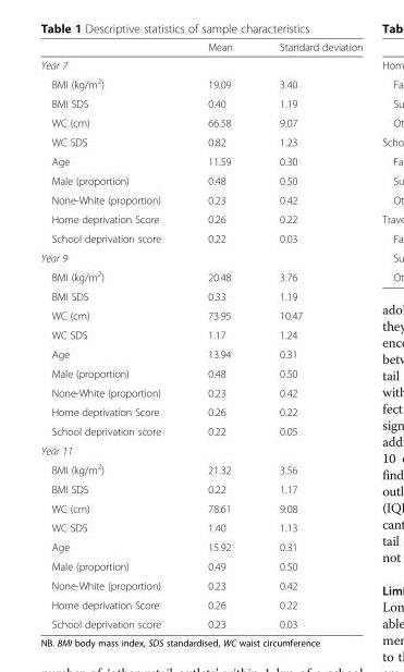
<table><thead><tr><td></td><td>Mean</td><td>Standard deviation</td></tr></thead><tbody><tr><td colspan="3">Year 7</td></tr><tr><td>BMI (kg/m<sup>2</sup>)</td><td>19.09</td><td>3.40</td></tr><tr><td>BMI SDS</td><td>0.40</td><td>1.19</td></tr><tr><td>WC (cm)</td><td>66.58</td><td>9.07</td></tr><tr><td>WC SDS</td><td>0.82</td><td>1.23</td></tr><tr><td>Age</td><td>11.59</td><td>0.30</td></tr><tr><td>Male (proportion)</td><td>0.48</td><td>0.50</td></tr><tr><td>None-White (proportion)</td><td>0.23</td><td>0.42</td></tr><tr><td>Home deprivation Score</td><td>0.26</td><td>0.22</td></tr><tr><td>School deprivation score</td><td>0.22</td><td>0.03</td></tr><tr><td colspan="3">Year 9</td></tr><tr><td>BMI (kg/m<sup>2</sup>)</td><td>20.48</td><td>3.76</td></tr><tr><td>BMI SDS</td><td>0.33</td><td>1.19</td></tr><tr><td>WC (cm)</td><td>73.95</td><td>10.47</td></tr><tr><td>WC SDS</td><td>1.17</td><td>1.24</td></tr><tr><td>Age</td><td>13.94</td><td>0.31</td></tr><tr><td>Male (proportion)</td><td>0.48</td><td>0.50</td></tr><tr><td>None-White (proportion)</td><td>0.23</td><td>0.42</td></tr><tr><td>Home deprivation Score</td><td>0.26</td><td>0.22</td></tr><tr><td>School deprivation score</td><td>0.22</td><td>0.05</td></tr><tr><td colspan="3">Year 11</td></tr><tr><td>BMI (kg/m<sup>2</sup>)</td><td>21.32</td><td>3.56</td></tr><tr><td>BMI SDS</td><td>0.22</td><td>1.17</td></tr><tr><td>WC (cm)</td><td>78.61</td><td>9.08</td></tr><tr><td>WC SDS</td><td>1.40</td><td>1.13</td></tr><tr><td>Age</td><td>15.92</td><td>0.31</td></tr><tr><td>Male (proportion)</td><td>0.49</td><td>0.50</td></tr><tr><td>None-White (proportion)</td><td>0.23</td><td>0.42</td></tr><tr><td>Home deprivation Score</td><td>0.26</td><td>0.22</td></tr><tr><td>School deprivation score</td><td>0.23</td><td>0.03</td></tr></tbody></table>